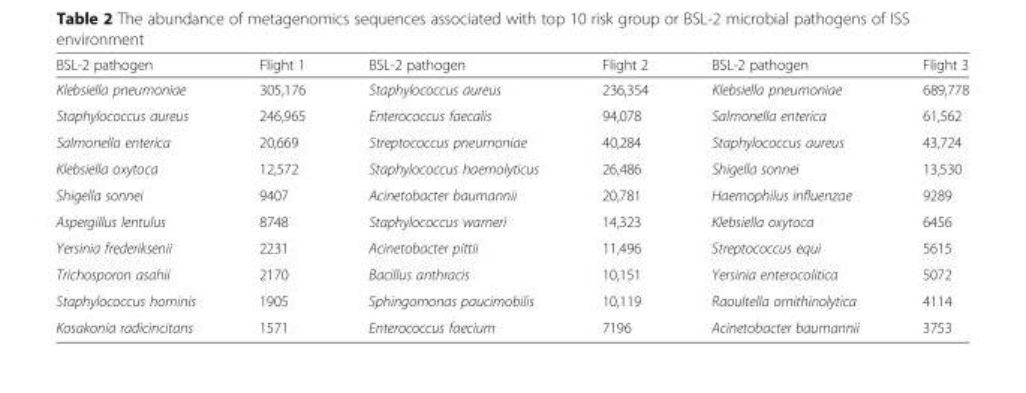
<table><thead><tr><td>BSL-2 pathogen</td><td>Flight 1</td><td>BSL-2 pathogen</td><td>Flight 2</td><td>BSL-2 pathogen</td><td>Flight 3</td></tr></thead><tbody><tr><td>Klebsiella pneumoniae</td><td>305,176</td><td>Staphylococcus aureus</td><td>236,354</td><td>Klebsiella pneumoniae</td><td>689,778</td></tr><tr><td>Staphylococcus aureus</td><td>246,965</td><td>Enterococcus faecalis</td><td>94,078</td><td>Salmonella enterica</td><td>61,562</td></tr><tr><td>Salmonella enterica</td><td>20,669</td><td>Streptococcus pneumoniae</td><td>40,284</td><td>Staphylococcus aureus</td><td>43,724</td></tr><tr><td>Klebsiella oxytoca</td><td>12,572</td><td>Staphylococcus haemolyticus</td><td>26,486</td><td>Shigella sonnei</td><td>13,530</td></tr><tr><td>Shigella sonnei</td><td>9407</td><td>Acinetobacter baumannii</td><td>20,781</td><td>Haemophilus influenzae</td><td>9289</td></tr><tr><td>Aspergillus lentulus</td><td>8748</td><td>Staphylococcus warneri</td><td>14,323</td><td>Klebsiella oxytoca</td><td>6456</td></tr><tr><td>Yersinia frederiksenii</td><td>2231</td><td>Acinetobacter pittii</td><td>11,496</td><td>Streptococcus equi</td><td>5615</td></tr><tr><td>Trichosporon asahii</td><td>2170</td><td>Bacillus anthracis</td><td>10,151</td><td>Yersinia enterocolitica</td><td>5072</td></tr><tr><td>Staphylococcus hominis</td><td>1905</td><td>Sphingomonas paucimobilis</td><td>10,119</td><td>Raoultella ornithinolytica</td><td>4114</td></tr><tr><td>Kosakonia radicincitans</td><td>1571</td><td>Enterococcus faecium</td><td>7196</td><td>Acinetobacter baumannii</td><td>3753</td></tr></tbody></table>